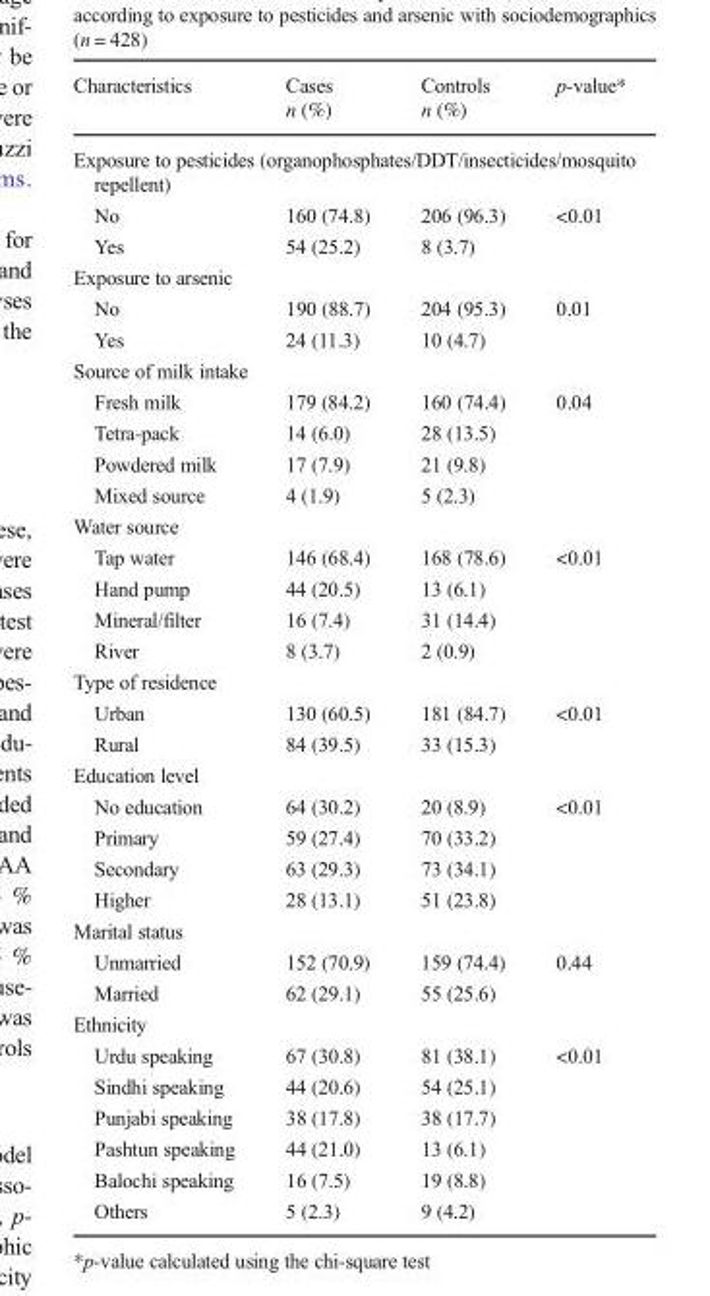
<table><thead><tr><td rowspan="2">Characteristics</td><td rowspan="2">Cases n (%)</td><td rowspan="2">Controls n (%)</td><td rowspan="2">p-value*</td></tr><tr></tr></thead><tbody><tr><td colspan="4">Exposure to pesticides (organophosphates/DDT/insecticides/mosquito repellent)</td></tr><tr><td>No</td><td>160 (74.8)</td><td>206 (96.3)</td><td>&lt;0.01</td></tr><tr><td>Yes</td><td>54 (25.2)</td><td>8 (3.7)</td><td></td></tr><tr><td colspan="4">Exposure to arsenic</td></tr><tr><td>No</td><td>190 (88.7)</td><td>204 (95.3)</td><td>0.01</td></tr><tr><td>Yes</td><td>24 (11.3)</td><td>10 (4.7)</td><td></td></tr><tr><td colspan="4">Source of milk intake</td></tr><tr><td>Fresh milk</td><td>179 (84.2)</td><td>160 (74.4)</td><td>0.04</td></tr><tr><td>Tetra-pack</td><td>14 (6.0)</td><td>28 (13.5)</td><td></td></tr><tr><td>Powdered milk</td><td>17 (7.9)</td><td>21 (9.8)</td><td></td></tr><tr><td>Mixed source</td><td>4 (1.9)</td><td>5 (2.3)</td><td></td></tr><tr><td colspan="4">Water source</td></tr><tr><td>Tap water</td><td>146 (68.4)</td><td>168 (78.6)</td><td>&lt;0.01</td></tr><tr><td>Hand pump</td><td>44 (20.5)</td><td>13 (6.1)</td><td></td></tr><tr><td>Mineral/filter</td><td>16 (7.4)</td><td>31 (14.4)</td><td></td></tr><tr><td>River</td><td>8 (3.7)</td><td>2 (0.9)</td><td></td></tr><tr><td colspan="4">Type of residence</td></tr><tr><td>Urban</td><td>130 (60.5)</td><td>181 (84.7)</td><td>&lt;0.01</td></tr><tr><td>Rural</td><td>84 (39.5)</td><td>33 (15.3)</td><td></td></tr><tr><td colspan="4">Education level</td></tr><tr><td>No education</td><td>64 (30.2)</td><td>20 (8.9)</td><td>&lt;0.01</td></tr><tr><td>Primary</td><td>59 (27.4)</td><td>70 (33.2)</td><td></td></tr><tr><td>Secondary</td><td>63 (29.3)</td><td>73 (34.1)</td><td></td></tr><tr><td>Higher</td><td>28 (13.1)</td><td>51 (23.8)</td><td></td></tr><tr><td colspan="4">Marital status</td></tr><tr><td>Unmarried</td><td>152 (70.9)</td><td>159 (74.4)</td><td>0.44</td></tr><tr><td>Married</td><td>62 (29.1)</td><td>55 (25.6)</td><td></td></tr><tr><td colspan="4">Ethnicity</td></tr><tr><td>Urdu speaking</td><td>67 (30.8)</td><td>81 (38.1)</td><td>&lt;0.01</td></tr><tr><td>Sindhi speaking</td><td>44 (20.6)</td><td>54 (25.1)</td><td></td></tr><tr><td>Punjabi speaking</td><td>38 (17.8)</td><td>38 (17.7)</td><td></td></tr><tr><td>Pashtun speaking</td><td>44 (21.0)</td><td>13 (6.1)</td><td></td></tr><tr><td>Balochi speaking</td><td>16 (7.5)</td><td>19 (8.8)</td><td></td></tr><tr><td>Others</td><td>5 (2.3)</td><td>9 (4.2)</td><td></td></tr></tbody></table>